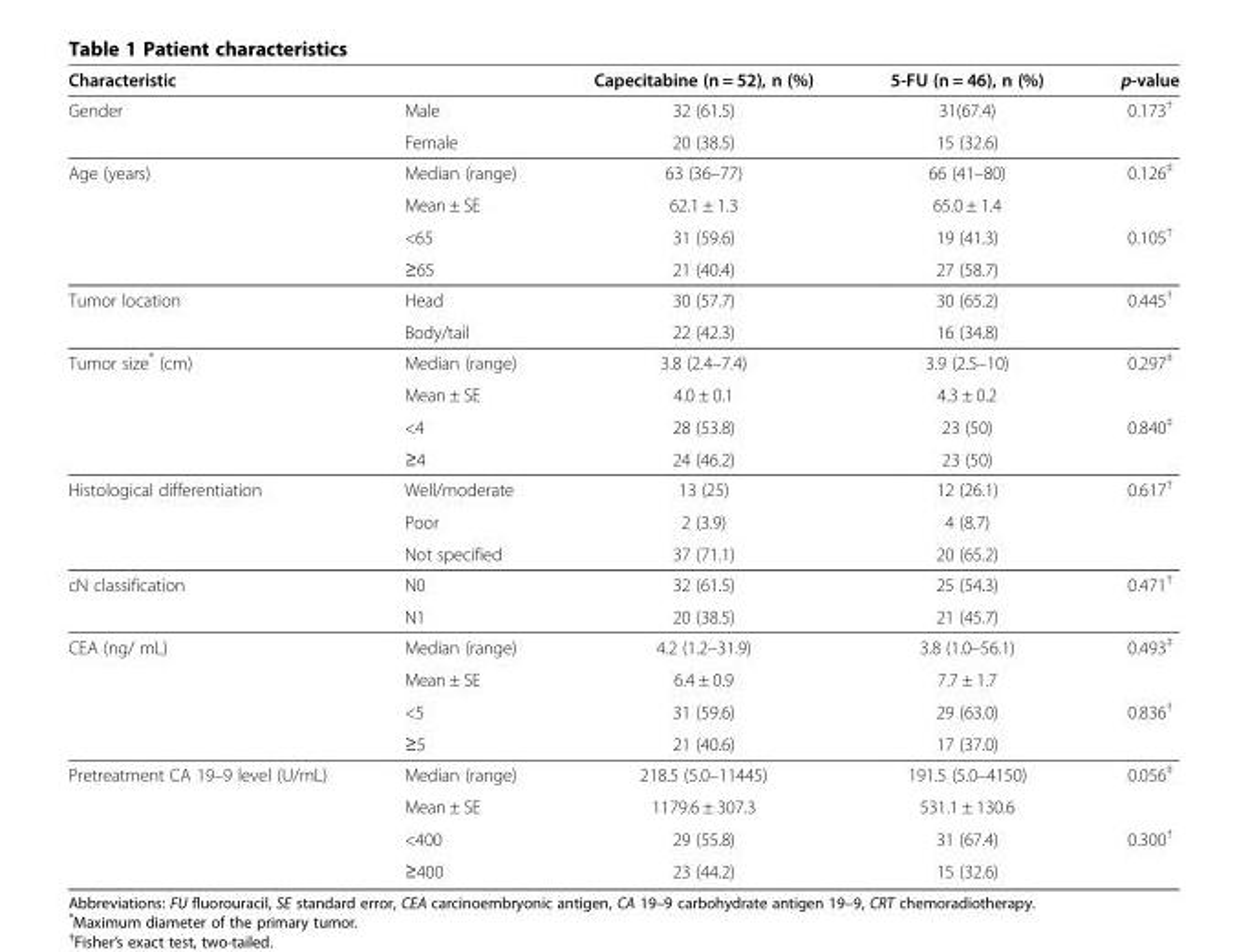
<table><thead><tr><td>Characteristic</td><td></td><td>Capecitabine (n = 52), n (%)</td><td>5-FU (n = 46), n (%)</td><td>p-value</td></tr></thead><tbody><tr><td rowspan="2">Gender</td><td>Male</td><td>32 (61.5)</td><td>31(67.4)</td><td>0.173<sup>†</sup></td></tr><tr><td>Female</td><td>20 (38.5)</td><td>15 (32.6)</td><td></td></tr><tr><td rowspan="4">Age (years)</td><td>Median (range)</td><td>63 (36–77)</td><td>66 (41–80)</td><td>0.126<sup>‡</sup></td></tr><tr><td>Mean ± SE</td><td>62.1 ± 1.3</td><td>65.0 ± 1.4</td><td></td></tr><tr><td>&lt;65</td><td>31 (59.6)</td><td>19 (41.3)</td><td>0.105<sup>†</sup></td></tr><tr><td>≥65</td><td>21 (40.4)</td><td>27 (58.7)</td><td></td></tr><tr><td rowspan="2">Tumor location</td><td>Head</td><td>30 (57.7)</td><td>30 (65.2)</td><td>0.445<sup>†</sup></td></tr><tr><td>Body/tail</td><td>22 (42.3)</td><td>16 (34.8)</td><td></td></tr><tr><td rowspan="4">Tumor size* (cm)</td><td>Median (range)</td><td>3.8 (2.4–7.4)</td><td>3.9 (2.5–10)</td><td>0.297<sup>‡</sup></td></tr><tr><td>Mean ± SE</td><td>4.0 ± 0.1</td><td>4.3 ± 0.2</td><td></td></tr><tr><td>&lt;4</td><td>28 (53.8)</td><td>23 (50)</td><td>0.840<sup>‡</sup></td></tr><tr><td>≥4</td><td>24 (46.2)</td><td>23 (50)</td><td></td></tr><tr><td rowspan="3">Histological differentiation</td><td>Well/moderate</td><td>13 (25)</td><td>12 (26.1)</td><td>0.617<sup>†</sup></td></tr><tr><td>Poor</td><td>2 (3.9)</td><td>4 (8.7)</td><td></td></tr><tr><td>Not specified</td><td>37 (71.1)</td><td>20 (65.2)</td><td></td></tr><tr><td rowspan="2">cN classification</td><td>N0</td><td>32 (61.5)</td><td>25 (54.3)</td><td>0.471<sup>†</sup></td></tr><tr><td>N1</td><td>20 (38.5)</td><td>21 (45.7)</td><td></td></tr><tr><td rowspan="4">CEA (ng/ mL)</td><td>Median (range)</td><td>4.2 (1.2–31.9)</td><td>3.8 (1.0–56.1)</td><td>0.493<sup>‡</sup></td></tr><tr><td>Mean ± SE</td><td>6.4 ± 0.9</td><td>7.7 ± 1.7</td><td></td></tr><tr><td>&lt;5</td><td>31 (59.6)</td><td>29 (63.0)</td><td>0.836<sup>†</sup></td></tr><tr><td>≥5</td><td>21 (40.6)</td><td>17 (37.0)</td><td></td></tr><tr><td rowspan="4">Pretreatment CA 19–9 level (U/mL)</td><td>Median (range)</td><td>218.5 (5.0–11445)</td><td>191.5 (5.0–4150)</td><td>0.056<sup>‡</sup></td></tr><tr><td>Mean ± SE</td><td>1179.6 ± 307.3</td><td>531.1 ± 130.6</td><td></td></tr><tr><td>&lt;400</td><td>29 (55.8)</td><td>31 (67.4)</td><td>0.300<sup>†</sup></td></tr><tr><td>≥400</td><td>23 (44.2)</td><td>15 (32.6)</td><td></td></tr></tbody></table>